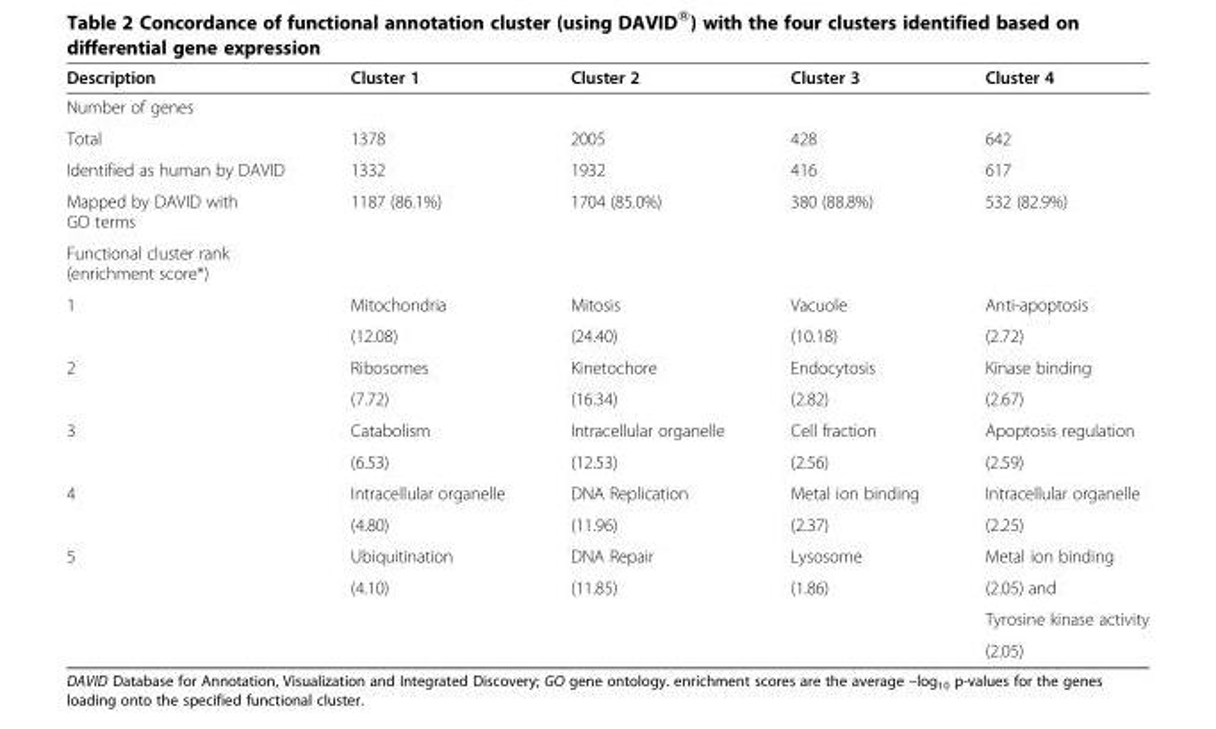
<table><thead><tr><td>Description</td><td>Cluster 1</td><td>Cluster 2</td><td>Cluster 3</td><td>Cluster 4</td></tr></thead><tbody><tr><td colspan="5">Number of genes</td></tr><tr><td>Total</td><td>1378</td><td>2005</td><td>428</td><td>642</td></tr><tr><td>Identified as human by DAVID</td><td>1332</td><td>1932</td><td>416</td><td>617</td></tr><tr><td>Mapped by DAVID with GO terms</td><td>1187 (86.1%)</td><td>1704 (85.0%)</td><td>380 (88.8%)</td><td>532 (82.9%)</td></tr><tr><td colspan="5">Functional cluster rank (enrichment score*)</td></tr><tr><td rowspan="2">1</td><td>Mitochondria</td><td>Mitosis</td><td>Vacuole</td><td>Anti-apoptosis</td></tr><tr><td>(12.08)</td><td>(24.40)</td><td>(10.18)</td><td>(2.72)</td></tr><tr><td rowspan="2">2</td><td>Ribosomes</td><td>Kinetochore</td><td>Endocytosis</td><td>Kinase binding</td></tr><tr><td>(7.72)</td><td>(16.34)</td><td>(2.82)</td><td>(2.67)</td></tr><tr><td rowspan="2">3</td><td>Catabolism</td><td>Intracellular organelle</td><td>Cell fraction</td><td>Apoptosis regulation</td></tr><tr><td>(6.53)</td><td>(12.53)</td><td>(2.56)</td><td>(2.59)</td></tr><tr><td rowspan="2">4</td><td>Intracellular organelle</td><td>DNA Replication</td><td>Metal ion binding</td><td>Intracellular organelle</td></tr><tr><td>(4.80)</td><td>(11.96)</td><td>(2.37)</td><td>(2.25)</td></tr><tr><td rowspan="4">5</td><td>Ubiquitination</td><td>DNA Repair</td><td>Lysosome</td><td>Metal ion binding</td></tr><tr><td>(4.10)</td><td>(11.85)</td><td>(1.86)</td><td>(2.05) and</td></tr><tr><td></td><td></td><td></td><td>Tyrosine kinase activity</td></tr><tr><td></td><td></td><td></td><td>(2.05)</td></tr></tbody></table>